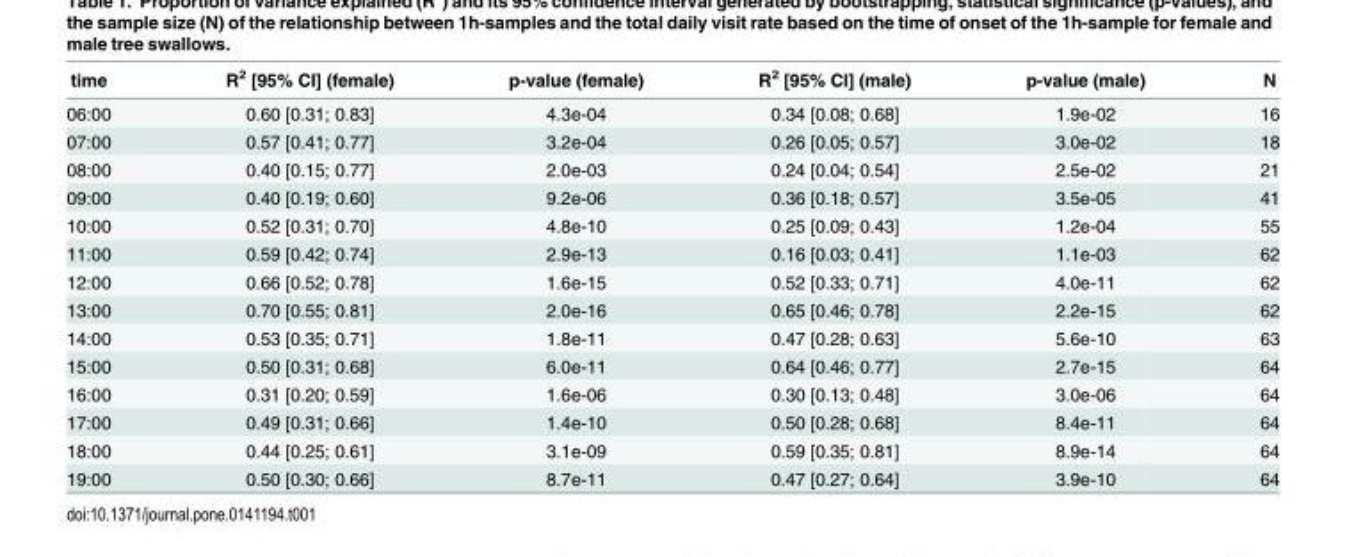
<table><thead><tr><td>time</td><td>R<sup>2</sup> [95% CI] (female)</td><td>p-value (female)</td><td>R<sup>2</sup> [95% CI] (male)</td><td>p-value (male)</td><td>N</td></tr></thead><tbody><tr><td>06:00</td><td>0.60 [0.31; 0.83]</td><td>4.3e-04</td><td>0.34 [0.08; 0.68]</td><td>1.9e-02</td><td>16</td></tr><tr><td>07:00</td><td>0.57 [0.41; 0.77]</td><td>3.2e-04</td><td>0.26 [0.05; 0.57]</td><td>3.0e-02</td><td>18</td></tr><tr><td>08:00</td><td>0.40 [0.15; 0.77]</td><td>2.0e-03</td><td>0.24 [0.04; 0.54]</td><td>2.5e-02</td><td>21</td></tr><tr><td>09:00</td><td>0.40 [0.19; 0.60]</td><td>9.2e-06</td><td>0.36 [0.18; 0.57]</td><td>3.5e-05</td><td>41</td></tr><tr><td>10:00</td><td>0.52 [0.31; 0.70]</td><td>4.8e-10</td><td>0.25 [0.09; 0.43]</td><td>1.2e-04</td><td>55</td></tr><tr><td>11:00</td><td>0.59 [0.42; 0.74]</td><td>2.9e-13</td><td>0.16 [0.03; 0.41]</td><td>1.1e-03</td><td>62</td></tr><tr><td>12:00</td><td>0.66 [0.52; 0.78]</td><td>1.6e-15</td><td>0.52 [0.33; 0.71]</td><td>4.0e-11</td><td>62</td></tr><tr><td>13:00</td><td>0.70 [0.55; 0.81]</td><td>2.0e-16</td><td>0.65 [0.46; 0.78]</td><td>2.2e-15</td><td>62</td></tr><tr><td>14:00</td><td>0.53 [0.35; 0.71]</td><td>1.8e-11</td><td>0.47 [0.28; 0.63]</td><td>5.6e-10</td><td>63</td></tr><tr><td>15:00</td><td>0.50 [0.31; 0.68]</td><td>6.0e-11</td><td>0.64 [0.46; 0.77]</td><td>2.7e-15</td><td>64</td></tr><tr><td>16:00</td><td>0.31 [0.20; 0.59]</td><td>1.6e-06</td><td>0.30 [0.13; 0.48]</td><td>3.0e-06</td><td>64</td></tr><tr><td>17:00</td><td>0.49 [0.31; 0.66]</td><td>1.4e-10</td><td>0.50 [0.28; 0.68]</td><td>8.4e-11</td><td>64</td></tr><tr><td>18:00</td><td>0.44 [0.25; 0.61]</td><td>3.1e-09</td><td>0.59 [0.35; 0.81]</td><td>8.9e-14</td><td>64</td></tr><tr><td>19:00</td><td>0.50 [0.30; 0.66]</td><td>8.7e-11</td><td>0.47 [0.27; 0.64]</td><td>3.9e-10</td><td>64</td></tr></tbody></table>